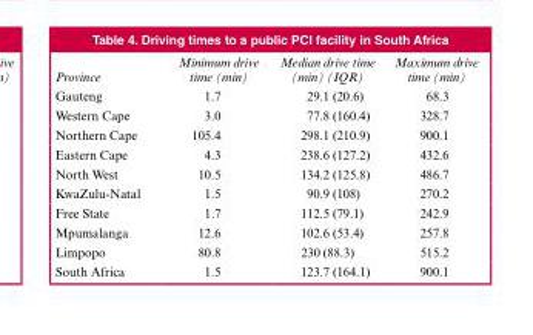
<table><thead><tr><td>Province</td><td>Minimum drive time (min)</td><td>Median drive time (min) (IQR)</td><td>Maximum drive time (min)</td></tr></thead><tbody><tr><td>Gauteng</td><td>1.7</td><td>29.1 (20.6)</td><td>68.3</td></tr><tr><td>Western Cape</td><td>3.0</td><td>77.8 (160.4)</td><td>328.7</td></tr><tr><td>Northern Cape</td><td>105.4</td><td>298.1 (210.9)</td><td>900.1</td></tr><tr><td>Eastern Cape</td><td>4.3</td><td>238.6 (127.2)</td><td>432.6</td></tr><tr><td>North West</td><td>10.5</td><td>134.2 (125.8)</td><td>486.7</td></tr><tr><td>KwaZulu-Natal</td><td>1.5</td><td>90.9 (108)</td><td>270.2</td></tr><tr><td>Free State</td><td>1.7</td><td>112.5 (79.1)</td><td>242.9</td></tr><tr><td>Mpumalanga</td><td>12.6</td><td>102.6 (53.4)</td><td>257.8</td></tr><tr><td>Limpopo</td><td>80.8</td><td>230 (88.3)</td><td>515.2</td></tr><tr><td>South Africa</td><td>1.5</td><td>123.7 (164.1)</td><td>900.1</td></tr></tbody></table>